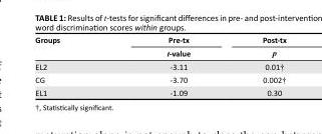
<table><thead><tr><td rowspan="2">Groups</td><td rowspan="2">Pre-tx t-value</td><td rowspan="2">Post-tx p</td></tr><tr></tr></thead><tbody><tr><td>EL2</td><td>-3.11</td><td>0.01†</td></tr><tr><td>CG</td><td>-3.70</td><td>0.002†</td></tr><tr><td>EL1</td><td>-1.09</td><td>0.30</td></tr></tbody></table>